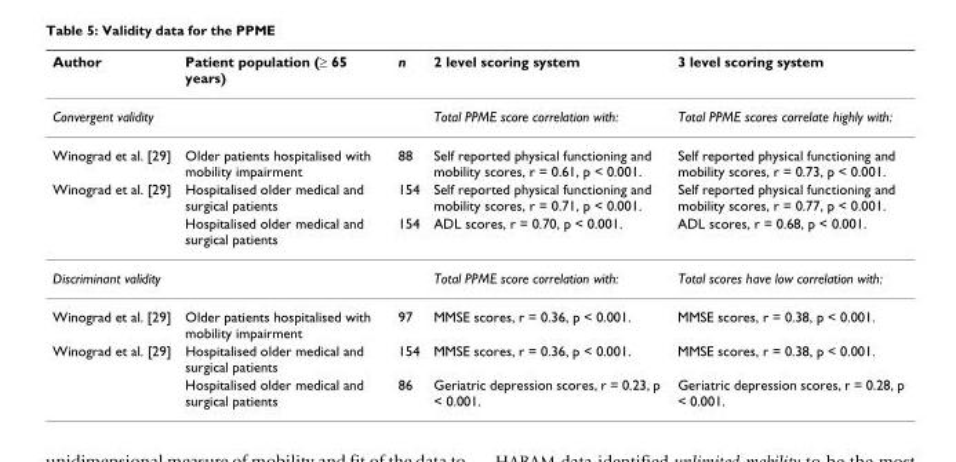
<table><thead><tr><td>Author</td><td>Patient population (≥ 65 years)</td><td>n</td><td>2 level scoring system</td><td>3 level scoring system</td></tr></thead><tbody><tr><td>Convergent validity</td><td></td><td></td><td>Total PPME score correlation with:</td><td>Total PPME scores correlate highly with:</td></tr><tr><td>Winograd et al. [29]</td><td>Older patients hospitalised with mobility impairment</td><td>88</td><td>Self reported physical functioning and mobility scores, r = 0.61, p &lt; 0.001.</td><td>Self reported physical functioning and mobility scores, r = 0.73, p &lt; 0.001.</td></tr><tr><td rowspan="2">Winograd et al. [29]</td><td>Hospitalised older medical and surgical patients</td><td>154</td><td>Self reported physical functioning and mobility scores, r = 0.71, p &lt; 0.001.</td><td>Self reported physical functioning and mobility scores, r = 0.77, p &lt; 0.001.</td></tr><tr><td>Hospitalised older medical and surgical patients</td><td>154</td><td>ADL scores, r = 0.70, p &lt; 0.001.</td><td>ADL scores, r = 0.68, p &lt; 0.001.</td></tr><tr><td>Discriminant validity</td><td></td><td></td><td>Total PPME score correlation with:</td><td>Total scores have low correlation with:</td></tr><tr><td>Winograd et al. [29]</td><td>Older patients hospitalised with mobility impairment</td><td>97</td><td>MMSE scores, r = 0.36, p &lt; 0.001.</td><td>MMSE scores, r = 0.38, p &lt; 0.001.</td></tr><tr><td rowspan="2">Winograd et al. [29]</td><td>Hospitalised older medical and surgical patients</td><td>154</td><td>MMSE scores, r = 0.36, p &lt; 0.001.</td><td>MMSE scores, r = 0.38, p &lt; 0.001.</td></tr><tr><td>Hospitalised older medical and surgical patients</td><td>86</td><td>Geriatric depression scores, r = 0.23, p &lt; 0.001.</td><td>Geriatric depression scores, r = 0.28, p &lt; 0.001.</td></tr></tbody></table>